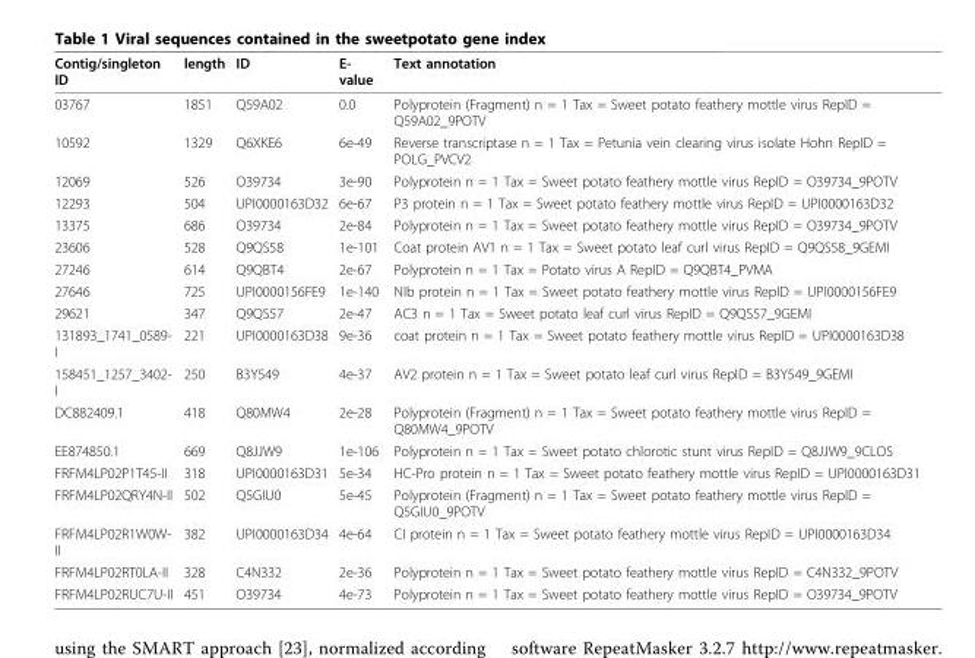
<table><thead><tr><td>Contig/singleton ID</td><td>length</td><td>ID</td><td>E- value</td><td>Text annotation</td></tr></thead><tbody><tr><td>03767</td><td>1851</td><td>Q59A02</td><td>0.0</td><td>Polyprotein (Fragment) n = 1 Tax = Sweet potato feathery mottle virus RepID = Q59A02_9POTV</td></tr><tr><td>10592</td><td>1329</td><td>Q6XKE6</td><td>6e-49</td><td>Reverse transcriptase n = 1 Tax = Petunia vein clearing virus isolate Hohn RepID = POLG_PVCV2</td></tr><tr><td>12069</td><td>526</td><td>O39734</td><td>3e-90</td><td>Polyprotein n = 1 Tax = Sweet potato feathery mottle virus RepID = O39734_9POTV</td></tr><tr><td>12293</td><td>504</td><td>UPI0000163D32</td><td>6e-67</td><td>P3 protein n = 1 Tax = Sweet potato feathery mottle virus RepID = UPI0000163D32</td></tr><tr><td>13375</td><td>686</td><td>O39734</td><td>2e-84</td><td>Polyprotein n = 1 Tax = Sweet potato feathery mottle virus RepID = O39734_9POTV</td></tr><tr><td>23606</td><td>528</td><td>Q9QS58</td><td>1e-101</td><td>Coat protein AV1 n = 1 Tax = Sweet potato leaf curl virus RepID = Q9QS58_9GEMI</td></tr><tr><td>27246</td><td>614</td><td>Q9QBT4</td><td>2e-67</td><td>Polyprotein n = 1 Tax = Potato virus A RepID = Q9QBT4_PVMA</td></tr><tr><td>27646</td><td>725</td><td>UPI0000156FE9</td><td>1e-140</td><td>NIb protein n = 1 Tax = Sweet potato feathery mottle virus RepID = UPI0000156FE9</td></tr><tr><td>29621</td><td>347</td><td>Q9QS57</td><td>2e-47</td><td>AC3 n = 1 Tax = Sweet potato leaf curl virus RepID = Q9QS57_9GEMI</td></tr><tr><td>131893_1741_0589- I</td><td>221</td><td>UPI0000163D38</td><td>9e-36</td><td>coat protein n = 1 Tax = Sweet potato feathery mottle virus RepID = UPI0000163D38</td></tr><tr><td>158451_1257_3402- I</td><td>250</td><td>B3Y549</td><td>4e-37</td><td>AV2 protein n = 1 Tax = Sweet potato leaf curl virus RepID = B3Y549_9GEMI</td></tr><tr><td>DC882409.1</td><td>418</td><td>Q80MW4</td><td>2e-28</td><td>Polyprotein (Fragment) n = 1 Tax = Sweet potato feathery mottle virus RepID = Q80MW4_9POTV</td></tr><tr><td>EE874850.1</td><td>669</td><td>Q8JJW9</td><td>1e-106</td><td>Polyprotein n = 1 Tax = Sweet potato chlorotic stunt virus RepID = Q8JJW9_9CLOS</td></tr><tr><td>FRFM4LP02P1T45-II</td><td>318</td><td>UPI0000163D31</td><td>5e-34</td><td>HC-Pro protein n = 1 Tax = Sweet potato feathery mottle virus RepID = UPI0000163D31</td></tr><tr><td>FRFM4LP02QRY4N-II</td><td>502</td><td>Q5GIU0</td><td>5e-45</td><td>Polyprotein (Fragment) n = 1 Tax = Sweet potato feathery mottle virus RepID = Q5GIU0_9POTV</td></tr><tr><td>FRFM4LP02R1W0W- II</td><td>382</td><td>UPI0000163D34</td><td>4e-64</td><td>CI protein n = 1 Tax = Sweet potato feathery mottle virus RepID = UPI0000163D34</td></tr><tr><td>FRFM4LP02RT0LA-II</td><td>328</td><td>C4N332</td><td>2e-36</td><td>Polyprotein n = 1 Tax = Sweet potato feathery mottle virus RepID = C4N332_9POTV</td></tr><tr><td>FRFM4LP02RUC7U-II</td><td>451</td><td>O39734</td><td>4e-73</td><td>Polyprotein n = 1 Tax = Sweet potato feathery mottle virus RepID = O39734_9POTV</td></tr></tbody></table>